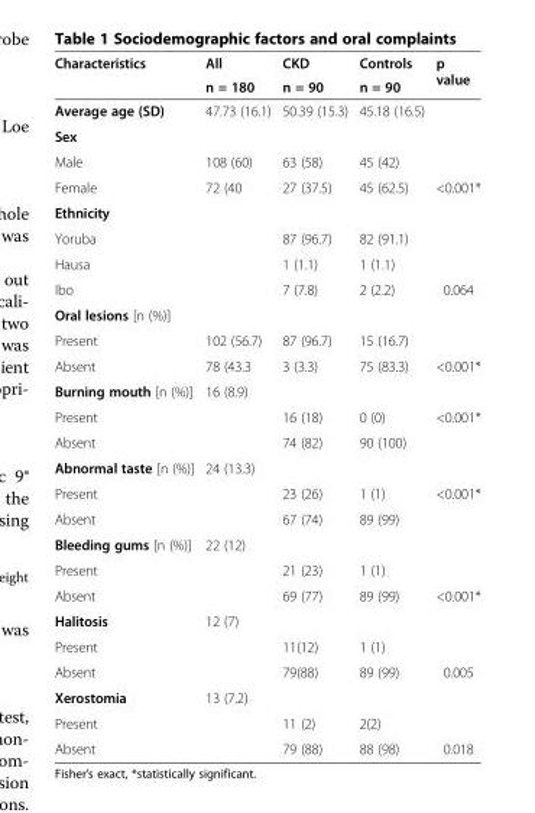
<table><thead><tr><td rowspan="2">Characteristics</td><td rowspan="2">All n = 180</td><td rowspan="2">CKD n = 90</td><td rowspan="2">Controls n = 90</td><td rowspan="2">p value</td></tr><tr></tr></thead><tbody><tr><td>Average age (SD)</td><td>47.73 (16.1)</td><td>50.39 (15.3)</td><td>45.18 (16.5)</td><td></td></tr><tr><td colspan="5">Sex</td></tr><tr><td>Male</td><td>108 (60)</td><td>63 (58)</td><td>45 (42)</td><td></td></tr><tr><td>Female</td><td>72 (40</td><td>27 (37.5)</td><td>45 (62.5)</td><td>&lt;0.001*</td></tr><tr><td colspan="5">Ethnicity</td></tr><tr><td>Yoruba</td><td></td><td>87 (96.7)</td><td>82 (91.1)</td><td></td></tr><tr><td>Hausa</td><td></td><td>1 (1.1)</td><td>1 (1.1)</td><td></td></tr><tr><td>Ibo</td><td></td><td>7 (7.8)</td><td>2 (2.2)</td><td>0.064</td></tr><tr><td colspan="5">Oral lesions [n (%)]</td></tr><tr><td>Present</td><td>102 (56.7)</td><td>87 (96.7)</td><td>15 (16.7)</td><td></td></tr><tr><td>Absent</td><td>78 (43.3</td><td>3 (3.3)</td><td>75 (83.3)</td><td>&lt;0.001*</td></tr><tr><td>Burning mouth [n (%)]</td><td>16 (8.9)</td><td></td><td></td><td></td></tr><tr><td>Present</td><td></td><td>16 (18)</td><td>0 (0)</td><td>&lt;0.001*</td></tr><tr><td>Absent</td><td></td><td>74 (82)</td><td>90 (100)</td><td></td></tr><tr><td>Abnormal taste [n (%)]</td><td>24 (13.3)</td><td></td><td></td><td></td></tr><tr><td>Present</td><td></td><td>23 (26)</td><td>1 (1)</td><td>&lt;0.001*</td></tr><tr><td>Absent</td><td></td><td>67 (74)</td><td>89 (99)</td><td></td></tr><tr><td>Bleeding gums [n (%)]</td><td>22 (12)</td><td></td><td></td><td></td></tr><tr><td>Present</td><td></td><td>21 (23)</td><td>1 (1)</td><td></td></tr><tr><td>Absent</td><td></td><td>69 (77)</td><td>89 (99)</td><td>&lt;0.001*</td></tr><tr><td>Halitosis</td><td>12 (7)</td><td></td><td></td><td></td></tr><tr><td>Present</td><td></td><td>11(12)</td><td>1 (1)</td><td></td></tr><tr><td>Absent</td><td></td><td>79(88)</td><td>89 (99)</td><td>0.005</td></tr><tr><td>Xerostomia</td><td>13 (7.2)</td><td></td><td></td><td></td></tr><tr><td>Present</td><td></td><td>11 (2)</td><td>2(2)</td><td></td></tr><tr><td>Absent</td><td></td><td>79 (88)</td><td>88 (98)</td><td>0.018</td></tr></tbody></table>